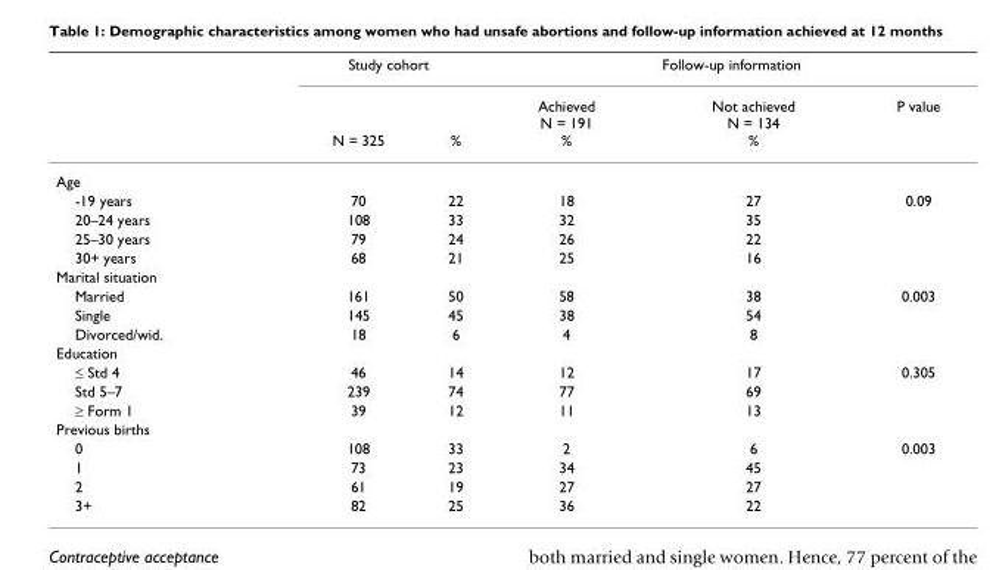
<table><thead><tr><td rowspan="2"></td><td colspan="2">Study cohort</td><td colspan="3">Follow-up information</td></tr><tr><td>N = 325</td><td>%</td><td>Achieved N = 191 %</td><td>Not achieved N = 134 %</td><td>P value</td></tr></thead><tbody><tr><td colspan="6">Age</td></tr><tr><td>-19 years</td><td>70</td><td>22</td><td>18</td><td>27</td><td>0.09</td></tr><tr><td>20–24 years</td><td>108</td><td>33</td><td>32</td><td>35</td><td></td></tr><tr><td>25–30 years</td><td>79</td><td>24</td><td>26</td><td>22</td><td></td></tr><tr><td>30+ years</td><td>68</td><td>21</td><td>25</td><td>16</td><td></td></tr><tr><td colspan="6">Marital situation</td></tr><tr><td>Married</td><td>161</td><td>50</td><td>58</td><td>38</td><td>0.003</td></tr><tr><td>Single</td><td>145</td><td>45</td><td>38</td><td>54</td><td></td></tr><tr><td>Divorced/wid.</td><td>18</td><td>6</td><td>4</td><td>8</td><td></td></tr><tr><td colspan="6">Education</td></tr><tr><td>≤ Std 4</td><td>46</td><td>14</td><td>12</td><td>17</td><td>0.305</td></tr><tr><td>Std 5–7</td><td>239</td><td>74</td><td>77</td><td>69</td><td></td></tr><tr><td>≥ Form 1</td><td>39</td><td>12</td><td>11</td><td>13</td><td></td></tr><tr><td colspan="6">Previous births</td></tr><tr><td>0</td><td>108</td><td>33</td><td>2</td><td>6</td><td>0.003</td></tr><tr><td>1</td><td>73</td><td>23</td><td>34</td><td>45</td><td></td></tr><tr><td>2</td><td>61</td><td>19</td><td>27</td><td>27</td><td></td></tr><tr><td>3+</td><td>82</td><td>25</td><td>36</td><td>22</td><td></td></tr></tbody></table>